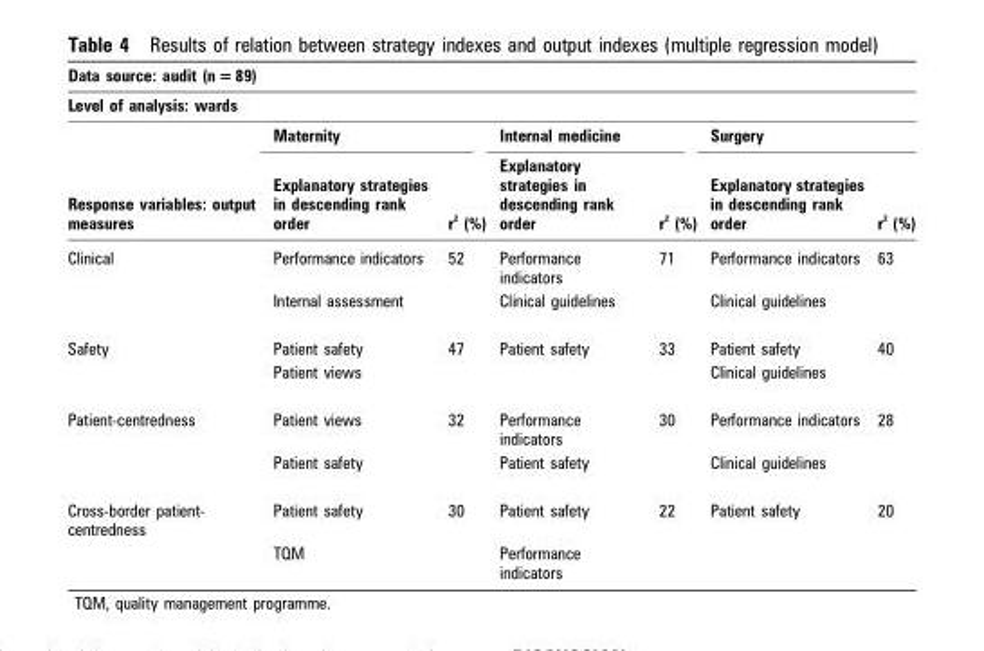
<table><thead><tr><td rowspan="2" colspan="7">Data source: audit (n = 89) Level of analysis: wards</td></tr><tr></tr><tr><td rowspan="2">Response variables: output measures</td><td colspan="2">Maternity</td><td colspan="2">Internal medicine</td><td colspan="2">Surgery</td></tr><tr><td>Explanatory strategies in descending rank order</td><td>r <sup>2</sup> (%)</td><td>Explanatory strategies in descending rank order</td><td>r <sup>2</sup> (%)</td><td>Explanatory strategies in descending rank order</td><td>r <sup>2</sup> (%)</td></tr></thead><tbody><tr><td rowspan="2">Clinical</td><td>Performance indicators</td><td>52</td><td>Performance indicators</td><td>71</td><td>Performance indicators</td><td>63</td></tr><tr><td>Internal assessment</td><td></td><td>Clinical guidelines</td><td></td><td>Clinical guidelines</td><td></td></tr><tr><td rowspan="2">Safety</td><td>Patient safety</td><td>47</td><td>Patient safety</td><td>33</td><td>Patient safety</td><td>40</td></tr><tr><td>Patient views</td><td></td><td></td><td></td><td>Clinical guidelines</td><td></td></tr><tr><td rowspan="2">Patient-centredness</td><td>Patient views</td><td>32</td><td>Performance indicators</td><td>30</td><td>Performance indicators</td><td>28</td></tr><tr><td>Patient safety</td><td></td><td>Patient safety</td><td></td><td>Clinical guidelines</td><td></td></tr><tr><td rowspan="2">Cross-border patient- centredness</td><td>Patient safety</td><td>30</td><td>Patient safety</td><td>22</td><td>Patient safety</td><td>20</td></tr><tr><td>TQM</td><td></td><td>Performance indicators</td><td></td><td></td><td></td></tr></tbody></table>